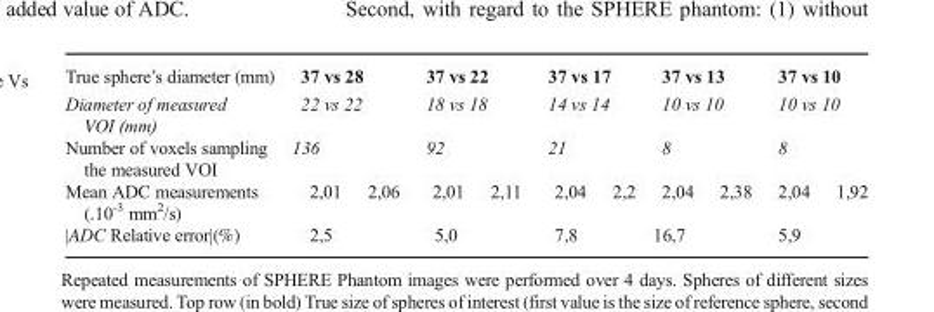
<table><tbody><tr><td>True sphere’s diameter (mm)</td><td colspan="2">37 vs 28</td><td colspan="2">37 vs 22</td><td colspan="2">37 vs 17</td><td colspan="2">37 vs 13</td><td colspan="2">37 vs 10</td></tr><tr><td>Diameter of measured VOI (mm)</td><td colspan="2">22 vs 22</td><td colspan="2">18 vs 18</td><td colspan="2">14 vs 14</td><td colspan="2">10 vs 10</td><td colspan="2">10 vs 10</td></tr><tr><td>Number of voxels sampling the measured VOI</td><td colspan="2">136</td><td colspan="2">92</td><td colspan="2">21</td><td colspan="2">8</td><td colspan="2">8</td></tr><tr><td>Mean ADC measurements (.10<sup>-3</sup> mm<sup>2</sup>/s)</td><td>2,01</td><td>2,06</td><td>2,01</td><td>2,11</td><td>2,04</td><td>2,2</td><td>2,04</td><td>2,38</td><td>2,04</td><td>1,92</td></tr><tr><td>|ADC Relative error|(%)</td><td colspan="2">2,5</td><td colspan="2">5,0</td><td colspan="2">7,8</td><td colspan="2">16,7</td><td colspan="2">5,9</td></tr></tbody></table>